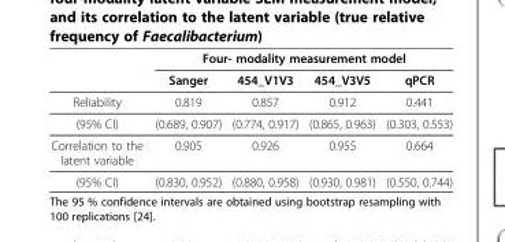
<table><thead><tr><td rowspan="2"></td><td colspan="4">Four- modality measurement model</td></tr><tr><td>Sanger</td><td>454_V1V3</td><td>454_V3V5</td><td>qPCR</td></tr></thead><tbody><tr><td>Reliability</td><td>0.819</td><td>0.857</td><td>0.912</td><td>0.441</td></tr><tr><td>(95% CI)</td><td>(0.689, 0.907)</td><td>(0.774, 0.917)</td><td>(0.865, 0.963)</td><td>(0.303, 0.553)</td></tr><tr><td>Correlation to the latent variable</td><td>0.905</td><td>0.926</td><td>0.955</td><td>0.664</td></tr><tr><td>(95% CI)</td><td>(0.830, 0.952)</td><td>(0.880, 0.958)</td><td>(0.930, 0.981)</td><td>(0.550, 0.744)</td></tr></tbody></table>